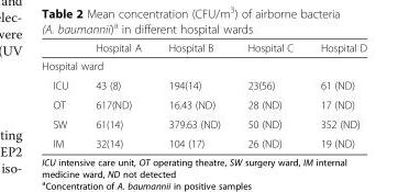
<table><thead><tr><td></td><td>Hospital A</td><td>Hospital B</td><td>Hospital C</td><td>Hospital D</td></tr></thead><tbody><tr><td colspan="5">Hospital ward</td></tr><tr><td>ICU</td><td>43 (8)</td><td>194(14)</td><td>23(56)</td><td>61 (ND)</td></tr><tr><td>OT</td><td>617(ND)</td><td>16.43 (ND)</td><td>28 (ND)</td><td>17 (ND)</td></tr><tr><td>SW</td><td>61(14)</td><td>379.63 (ND)</td><td>50 (ND)</td><td>352 (ND)</td></tr><tr><td>IM</td><td>32(14)</td><td>104 (17)</td><td>26 (ND)</td><td>19 (ND)</td></tr></tbody></table>